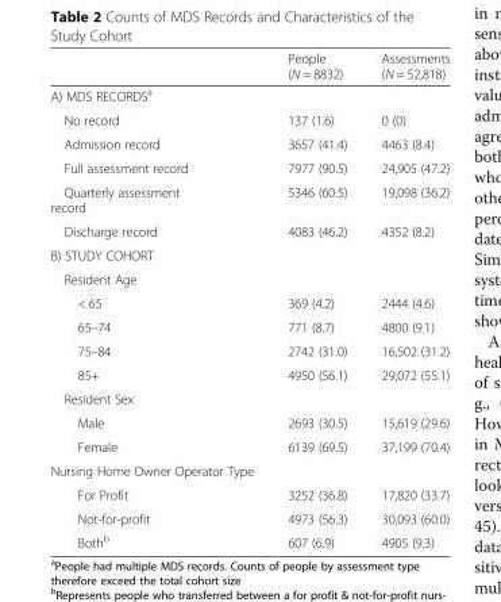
<table><thead><tr><td></td><td>People (N = 8832)</td><td>Assessments (N = 52,818)</td></tr></thead><tbody><tr><td colspan="3">A) MDS RECORDS<sup>a</sup></td></tr><tr><td>No record</td><td>137 (1.6)</td><td>0 (0)</td></tr><tr><td>Admission record</td><td>3657 (41.4)</td><td>4463 (8.4)</td></tr><tr><td>Full assessment record</td><td>7977 (90.5)</td><td>24,905 (47.2)</td></tr><tr><td>Quarterly assessment record</td><td>5346 (60.5)</td><td>19,098 (36.2)</td></tr><tr><td>Discharge record</td><td>4083 (46.2)</td><td>4352 (8.2)</td></tr><tr><td colspan="3">B) STUDY COHORT</td></tr><tr><td colspan="3">Resident Age</td></tr><tr><td>&lt; 65</td><td>369 (4.2)</td><td>2444 (4.6)</td></tr><tr><td>65–74</td><td>771 (8.7)</td><td>4800 (9.1)</td></tr><tr><td>75–84</td><td>2742 (31.0)</td><td>16,502 (31.2)</td></tr><tr><td>85+</td><td>4950 (56.1)</td><td>29,072 (55.1)</td></tr><tr><td colspan="3">Resident Sex</td></tr><tr><td>Male</td><td>2693 (30.5)</td><td>15,619 (29.6)</td></tr><tr><td>Female</td><td>6139 (69.5)</td><td>37,199 (70.4)</td></tr><tr><td colspan="3">Nursing Home Owner Operator Type</td></tr><tr><td>For Profit</td><td>3252 (36.8)</td><td>17,820 (33.7)</td></tr><tr><td>Not-for-profit</td><td>4973 (56.3)</td><td>30,093 (60.0)</td></tr><tr><td>Both<sup>b</sup></td><td>607 (6.9)</td><td>4905 (9.3)</td></tr></tbody></table>